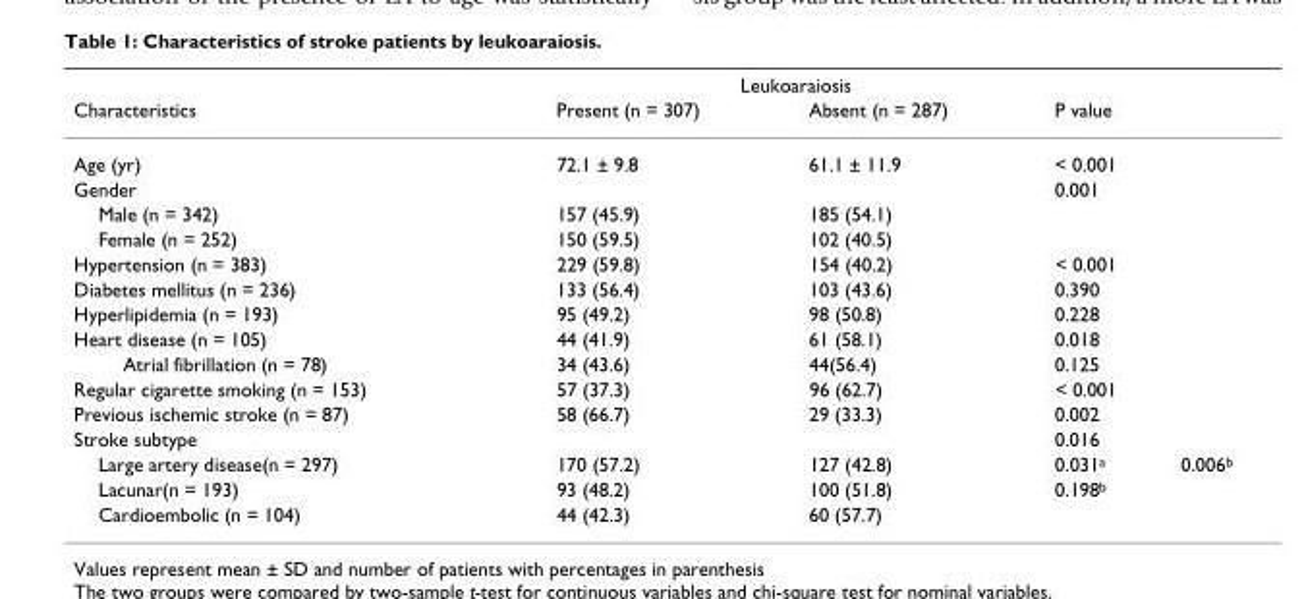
<table><thead><tr><td rowspan="2">Characteristics</td><td colspan="2">Leukoaraiosis</td><td rowspan="2">P value</td><td rowspan="2"></td></tr><tr><td>Present (n = 307)</td><td>Absent (n = 287)</td></tr></thead><tbody><tr><td>Age (yr)</td><td>72.1 ± 9.8</td><td>61.1 ± 11.9</td><td>&lt; 0.001</td><td></td></tr><tr><td>Gender</td><td></td><td></td><td>0.001</td><td></td></tr><tr><td>Male (n = 342)</td><td>157 (45.9)</td><td>185 (54.1)</td><td></td><td></td></tr><tr><td>Female (n = 252)</td><td>150 (59.5)</td><td>102 (40.5)</td><td></td><td></td></tr><tr><td>Hypertension (n = 383)</td><td>229 (59.8)</td><td>154 (40.2)</td><td>&lt; 0.001</td><td></td></tr><tr><td>Diabetes mellitus (n = 236)</td><td>133 (56.4)</td><td>103 (43.6)</td><td>0.390</td><td></td></tr><tr><td>Hyperlipidemia (n = 193)</td><td>95 (49.2)</td><td>98 (50.8)</td><td>0.228</td><td></td></tr><tr><td>Heart disease (n = 105)</td><td>44 (41.9)</td><td>61 (58.1)</td><td>0.018</td><td></td></tr><tr><td>Atrial fibrillation (n = 78)</td><td>34 (43.6)</td><td>44(56.4)</td><td>0.125</td><td></td></tr><tr><td>Regular cigarette smoking (n = 153)</td><td>57 (37.3)</td><td>96 (62.7)</td><td>&lt; 0.001</td><td></td></tr><tr><td>Previous ischemic stroke (n = 87)</td><td>58 (66.7)</td><td>29 (33.3)</td><td>0.002</td><td></td></tr><tr><td>Stroke subtype</td><td></td><td></td><td>0.016</td><td></td></tr><tr><td>Large artery disease(n = 297)</td><td>170 (57.2)</td><td>127 (42.8)</td><td>0.031<sup>a</sup></td><td>0.006<sup>b</sup></td></tr><tr><td>Lacunar(n = 193)</td><td>93 (48.2)</td><td>100 (51.8)</td><td>0.198<sup>b</sup></td><td></td></tr><tr><td>Cardioembolic (n = 104)</td><td>44 (42.3)</td><td>60 (57.7)</td><td></td><td></td></tr></tbody></table>